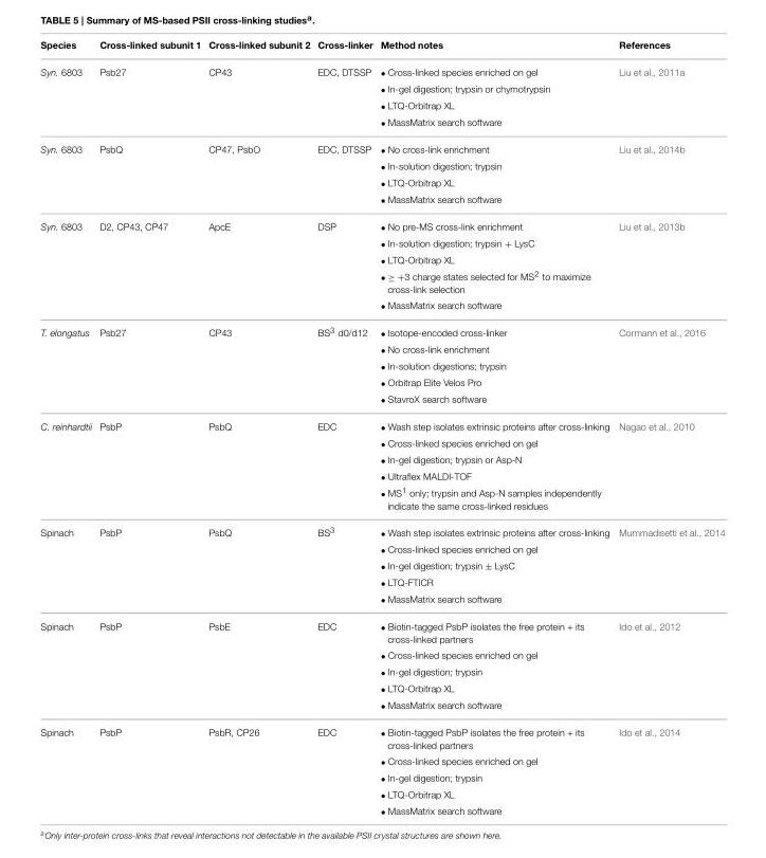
<table><thead><tr><td>Species</td><td>Cross-linked subunit 1</td><td>Cross-linked subunit 2</td><td>Cross-linker</td><td>Method notes</td><td>References</td></tr></thead><tbody><tr><td rowspan="4">Syn. 6803</td><td>Psb27</td><td>CP43</td><td>EDC, DTSSP</td><td>• Cross-linked species enriched on gel</td><td>Liu et al., 2011a</td></tr><tr><td></td><td></td><td></td><td>• In-gel digestion; trypsin or chymotrypsin</td><td></td></tr><tr><td></td><td></td><td></td><td>• LTQ-Orbitrap XL</td><td></td></tr><tr><td></td><td></td><td></td><td>• MassMatrix search software</td><td></td></tr><tr><td rowspan="4">Syn. 6803</td><td>PsbQ</td><td>CP47, PsbO</td><td>EDC, DTSSP</td><td>• No cross-link enrichment</td><td>Liu et al., 2014b</td></tr><tr><td></td><td></td><td></td><td>• In-solution digestion; trypsin</td><td></td></tr><tr><td></td><td></td><td></td><td>• LTQ-Orbitrap XL</td><td></td></tr><tr><td></td><td></td><td></td><td>• MassMatrix search software</td><td></td></tr><tr><td rowspan="5">Syn. 6803</td><td>D2, CP43, CP47</td><td>ApcE</td><td>DSP</td><td>• No pre-MS cross-link enrichment</td><td>Liu et al., 2013b</td></tr><tr><td></td><td></td><td></td><td>• In-solution digestion; trypsin + LysC</td><td></td></tr><tr><td></td><td></td><td></td><td>• LTQ-Orbitrap XL</td><td></td></tr><tr><td></td><td></td><td></td><td>• ≥ +3 charge states selected for MS<sup>2</sup> to maximize cross-link selection</td><td></td></tr><tr><td></td><td></td><td></td><td>• MassMatrix search software</td><td></td></tr><tr><td rowspan="5">T. elongatus</td><td>Psb27</td><td>CP43</td><td>BS<sup>3</sup> d0/d12</td><td>• Isotope-encoded cross-linker</td><td>Cormann et al., 2016</td></tr><tr><td></td><td></td><td></td><td>• No cross-link enrichment</td><td></td></tr><tr><td></td><td></td><td></td><td>• In-solution digestions; trypsin</td><td></td></tr><tr><td></td><td></td><td></td><td>• Orbitrap Elite Velos Pro</td><td></td></tr><tr><td></td><td></td><td></td><td>• StavroX search software</td><td></td></tr><tr><td rowspan="5">C. reinhardtii</td><td>PsbP</td><td>PsbQ</td><td>EDC</td><td>• Wash step isolates extrinsic proteins after cross-linking</td><td>Nagao et al., 2010</td></tr><tr><td></td><td></td><td></td><td>• Cross-linked species enriched on gel</td><td></td></tr><tr><td></td><td></td><td></td><td>• In-gel digestion; trypsin or Asp-N</td><td></td></tr><tr><td></td><td></td><td></td><td>• Ultraflex MALDI-TOF</td><td></td></tr><tr><td></td><td></td><td></td><td>• MS<sup>1</sup> only; trypsin and Asp-N samples independently indicate the same cross-linked residues</td><td></td></tr><tr><td rowspan="5">Spinach</td><td>PsbP</td><td>PsbQ</td><td>BS<sup>3</sup></td><td>• Wash step isolates extrinsic proteins after cross-linking</td><td>Mummadisetti et al., 2014</td></tr><tr><td></td><td></td><td></td><td>• Cross-linked species enriched on gel</td><td></td></tr><tr><td></td><td></td><td></td><td>• In-gel digestion; trypsin ± LysC</td><td></td></tr><tr><td></td><td></td><td></td><td>• LTQ-FTICR</td><td></td></tr><tr><td></td><td></td><td></td><td>• MassMatrix search software</td><td></td></tr><tr><td rowspan="5">Spinach</td><td>PsbP</td><td>PsbE</td><td>EDC</td><td>• Biotin-tagged PsbP isolates the free protein + its cross-linked partners</td><td>Ido et al., 2012</td></tr><tr><td></td><td></td><td></td><td>• Cross-linked species enriched on gel</td><td></td></tr><tr><td></td><td></td><td></td><td>• In-gel digestion; trypsin</td><td></td></tr><tr><td></td><td></td><td></td><td>• LTQ-Orbitrap XL</td><td></td></tr><tr><td></td><td></td><td></td><td>• MassMatrix search software</td><td></td></tr><tr><td rowspan="5">Spinach</td><td>PsbP</td><td>PsbR, CP26</td><td>EDC</td><td>• Biotin-tagged PsbP isolates the free protein + its cross-linked partners</td><td>Ido et al., 2014</td></tr><tr><td></td><td></td><td></td><td>• Cross-linked species enriched on gel</td><td></td></tr><tr><td></td><td></td><td></td><td>• In-gel digestion; trypsin</td><td></td></tr><tr><td></td><td></td><td></td><td>• LTQ-Orbitrap XL</td><td></td></tr><tr><td></td><td></td><td></td><td>• MassMatrix search software</td><td></td></tr></tbody></table>